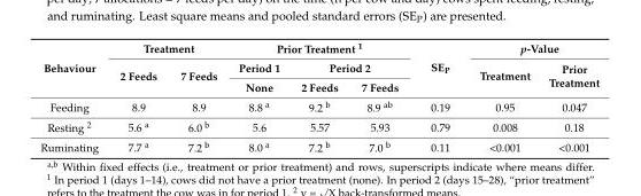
<table><thead><tr><td rowspan="3">Behaviour</td><td colspan="2">Treatment</td><td colspan="3">Prior Treatment <sup>1</sup></td><td rowspan="3">SE<sub>P</sub></td><td colspan="2">p-Value</td></tr><tr><td rowspan="2">2 Feeds</td><td rowspan="2">7 Feeds</td><td rowspan="2">Period 1 None</td><td colspan="2">Period 2</td><td rowspan="2">Treatment</td><td rowspan="2">Prior Treatment</td></tr><tr><td>2 Feeds</td><td>7 Feeds</td></tr></thead><tbody><tr><td>Feeding</td><td>8.9</td><td>8.9</td><td>8.8 <sup>a</sup></td><td>9.2 <sup>b</sup></td><td>8.9 <sup>ab</sup></td><td>0.19</td><td>0.95</td><td>0.047</td></tr><tr><td>Resting <sup>2</sup></td><td>5.6 <sup>a</sup></td><td>6.0 <sup>b</sup></td><td>5.6</td><td>5.57</td><td>5.93</td><td>0.79</td><td>0.008</td><td>0.18</td></tr><tr><td>Ruminating</td><td>7.7 <sup>a</sup></td><td>7.2 <sup>b</sup></td><td>8.0 <sup>a</sup></td><td>7.2 <sup>b</sup></td><td>7.0 <sup>b</sup></td><td>0.11</td><td>&lt;0.001</td><td>&lt;0.001</td></tr></tbody></table>